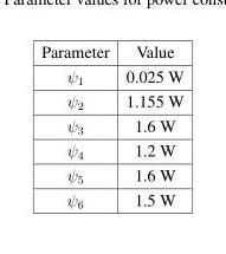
<table><thead><tr><td>Parameter</td><td>Value</td></tr></thead><tbody><tr><td>ψ<sub>1</sub></td><td>0.025 W</td></tr><tr><td>ψ<sub>2</sub></td><td>1.155 W</td></tr><tr><td>ψ<sub>3</sub></td><td>1.6 W</td></tr><tr><td>ψ<sub>4</sub></td><td>1.2 W</td></tr><tr><td>ψ<sub>5</sub></td><td>1.6 W</td></tr><tr><td>ψ<sub>6</sub></td><td>1.5 W</td></tr></tbody></table>